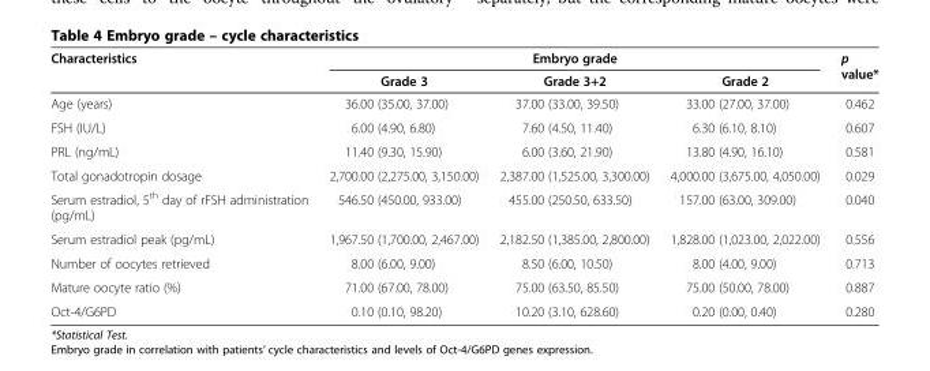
<table><thead><tr><td rowspan="2">Characteristics</td><td colspan="3">Embryo grade</td><td rowspan="2">p value*</td></tr><tr><td>Grade 3</td><td>Grade 3+2</td><td>Grade 2</td></tr></thead><tbody><tr><td>Age (years)</td><td>36.00 (35.00, 37.00)</td><td>37.00 (33.00, 39.50)</td><td>33.00 (27.00, 37.00)</td><td>0.462</td></tr><tr><td>FSH (IU/L)</td><td>6.00 (4.90, 6.80)</td><td>7.60 (4.50, 11.40)</td><td>6.30 (6.10, 8.10)</td><td>0.607</td></tr><tr><td>PRL (ng/mL)</td><td>11.40 (9.30, 15.90)</td><td>6.00 (3.60, 21.90)</td><td>13.80 (4.90, 16.10)</td><td>0.581</td></tr><tr><td>Total gonadotropin dosage</td><td>2,700.00 (2,275.00, 3,150.00)</td><td>2,387.00 (1,525.00, 3,300.00)</td><td>4,000.00 (3,675.00, 4,050.00)</td><td>0.029</td></tr><tr><td>Serum estradiol, 5<sup>th</sup> day of rFSH administration (pg/mL)</td><td>546.50 (450.00, 933.00)</td><td>455.00 (250.50, 633.50)</td><td>157.00 (63.00, 309.00)</td><td>0.040</td></tr><tr><td>Serum estradiol peak (pg/mL)</td><td>1,967.50 (1,700.00, 2,467.00)</td><td>2,182.50 (1,385.00, 2,800.00)</td><td>1,828.00 (1,023.00, 2,022.00)</td><td>0.556</td></tr><tr><td>Number of oocytes retrieved</td><td>8.00 (6.00, 9.00)</td><td>8.50 (6.00, 10.50)</td><td>8.00 (4.00, 9.00)</td><td>0.713</td></tr><tr><td>Mature oocyte ratio (%)</td><td>71.00 (67.00, 78.00)</td><td>75.00 (63.50, 85.50)</td><td>75.00 (50.00, 78.00)</td><td>0.887</td></tr><tr><td>Oct-4/G6PD</td><td>0.10 (0.10, 98.20)</td><td>10.20 (3.10, 628.60)</td><td>0.20 (0.00, 0.40)</td><td>0.280</td></tr></tbody></table>